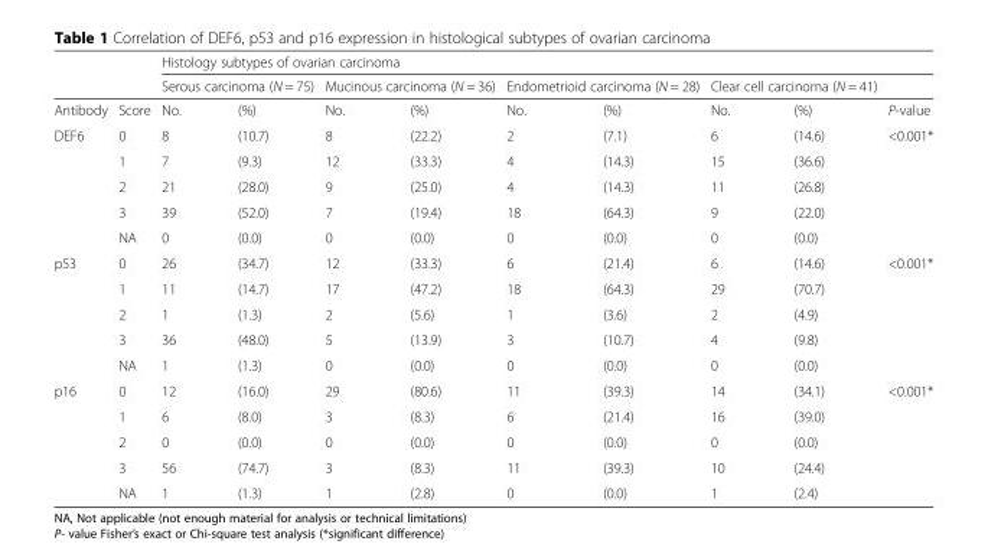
<table><thead><tr><td rowspan="3">Antibody</td><td rowspan="3">Score</td><td colspan="9">Histology subtypes of ovarian carcinoma</td></tr><tr><td colspan="2">Serous carcinoma (N = 75)</td><td colspan="2">Mucinous carcinoma (N = 36)</td><td colspan="2">Endometrioid carcinoma (N = 28)</td><td colspan="2">Clear cell carcinoma (N = 41)</td><td rowspan="2">P-value</td></tr><tr><td>No.</td><td>(%)</td><td>No.</td><td>(%)</td><td>No.</td><td>(%)</td><td>No.</td><td>(%)</td></tr></thead><tbody><tr><td rowspan="5">DEF6</td><td>0</td><td>8</td><td>(10.7)</td><td>8</td><td>(22.2)</td><td>2</td><td>(7.1)</td><td>6</td><td>(14.6)</td><td rowspan="5">&lt;0.001*</td></tr><tr><td>1</td><td>7</td><td>(9.3)</td><td>12</td><td>(33.3)</td><td>4</td><td>(14.3)</td><td>15</td><td>(36.6)</td></tr><tr><td>2</td><td>21</td><td>(28.0)</td><td>9</td><td>(25.0)</td><td>4</td><td>(14.3)</td><td>11</td><td>(26.8)</td></tr><tr><td>3</td><td>39</td><td>(52.0)</td><td>7</td><td>(19.4)</td><td>18</td><td>(64.3)</td><td>9</td><td>(22.0)</td></tr><tr><td>NA</td><td>0</td><td>(0.0)</td><td>0</td><td>(0.0)</td><td>0</td><td>(0.0)</td><td>0</td><td>(0.0)</td></tr><tr><td rowspan="5">p53</td><td>0</td><td>26</td><td>(34.7)</td><td>12</td><td>(33.3)</td><td>6</td><td>(21.4)</td><td>6</td><td>(14.6)</td><td rowspan="5">&lt;0.001*</td></tr><tr><td>1</td><td>11</td><td>(14.7)</td><td>17</td><td>(47.2)</td><td>18</td><td>(64.3)</td><td>29</td><td>(70.7)</td></tr><tr><td>2</td><td>1</td><td>(1.3)</td><td>2</td><td>(5.6)</td><td>1</td><td>(3.6)</td><td>2</td><td>(4.9)</td></tr><tr><td>3</td><td>36</td><td>(48.0)</td><td>5</td><td>(13.9)</td><td>3</td><td>(10.7)</td><td>4</td><td>(9.8)</td></tr><tr><td>NA</td><td>1</td><td>(1.3)</td><td>0</td><td>(0.0)</td><td>0</td><td>(0.0)</td><td>0</td><td>(0.0)</td></tr><tr><td rowspan="5">p16</td><td>0</td><td>12</td><td>(16.0)</td><td>29</td><td>(80.6)</td><td>11</td><td>(39.3)</td><td>14</td><td>(34.1)</td><td rowspan="5">&lt;0.001*</td></tr><tr><td>1</td><td>6</td><td>(8.0)</td><td>3</td><td>(8.3)</td><td>6</td><td>(21.4)</td><td>16</td><td>(39.0)</td></tr><tr><td>2</td><td>0</td><td>(0.0)</td><td>0</td><td>(0.0)</td><td>0</td><td>(0.0)</td><td>0</td><td>(0.0)</td></tr><tr><td>3</td><td>56</td><td>(74.7)</td><td>3</td><td>(8.3)</td><td>11</td><td>(39.3)</td><td>10</td><td>(24.4)</td></tr><tr><td>NA</td><td>1</td><td>(1.3)</td><td>1</td><td>(2.8)</td><td>0</td><td>(0.0)</td><td>1</td><td>(2.4)</td></tr></tbody></table>